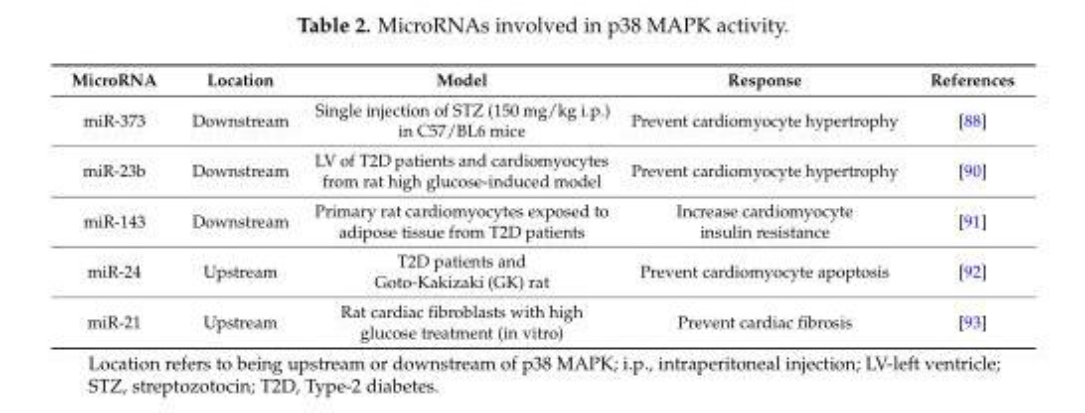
<table><thead><tr><td>MicroRNA</td><td>Location</td><td>Model</td><td>Response</td><td>References</td></tr></thead><tbody><tr><td>miR-373</td><td>Downstream</td><td>Single injection of STZ (150 mg/kg i.p.) in C57/BL6 mice</td><td>Prevent cardiomyocyte hypertrophy</td><td>[88]</td></tr><tr><td>miR-23b</td><td>Downstream</td><td>LV of T2D patients and cardiomyocytes from rat high glucose-induced model</td><td>Prevent cardiomyocyte hypertrophy</td><td>[90]</td></tr><tr><td>miR-143</td><td>Downstream</td><td>Primary rat cardiomyocytes exposed to adipose tissue from T2D patients</td><td>Increase cardiomyocyte insulin resistance</td><td>[91]</td></tr><tr><td>miR-24</td><td>Upstream</td><td>T2D patients and Goto-Kakizaki (GK) rat</td><td>Prevent cardiomyocyte apoptosis</td><td>[92]</td></tr><tr><td>miR-21</td><td>Upstream</td><td>Rat cardiac fibroblasts with high glucose treatment (in vitro)</td><td>Prevent cardiac fibrosis</td><td>[93]</td></tr></tbody></table>